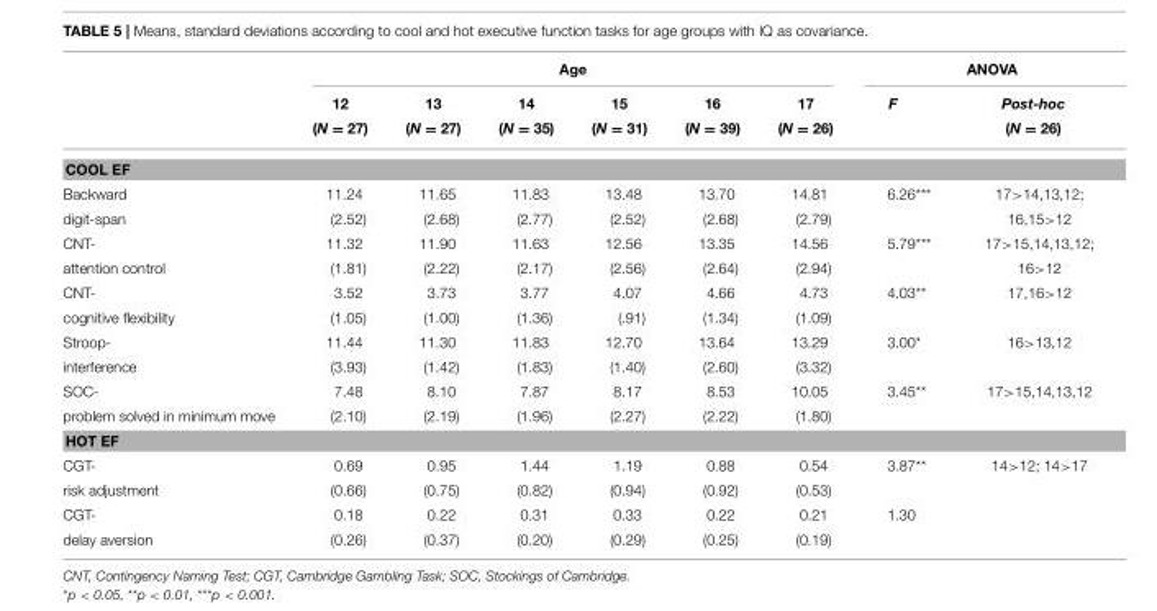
<table><thead><tr><td rowspan="3"></td><td colspan="6">Age</td><td colspan="2">ANOVA</td></tr><tr><td rowspan="2">12 (N = 27)</td><td rowspan="2">13 (N = 27)</td><td rowspan="2">14 (N = 35)</td><td rowspan="2">15 (N = 31)</td><td rowspan="2">16 (N = 39)</td><td rowspan="2">17 (N = 26)</td><td rowspan="2">F</td><td rowspan="2">Post-hoc (N = 26)</td></tr><tr></tr></thead><tbody><tr><td colspan="9">COOL EF</td></tr><tr><td>Backward</td><td>11.24</td><td>11.65</td><td>11.83</td><td>13.48</td><td>13.70</td><td>14.81</td><td>6.26***</td><td>17&gt;14,13,12;</td></tr><tr><td>digit-span</td><td>(2.52)</td><td>(2.68)</td><td>(2.77)</td><td>(2.52)</td><td>(2.68)</td><td>(2.79)</td><td></td><td>16,15&gt;12</td></tr><tr><td>CNT-</td><td>11.32</td><td>11.90</td><td>11.63</td><td>12.56</td><td>13.35</td><td>14.56</td><td>5.79***</td><td>17&gt;15,14,13,12;</td></tr><tr><td>attention control</td><td>(1.81)</td><td>(2.22)</td><td>(2.17)</td><td>(2.56)</td><td>(2.64)</td><td>(2.94)</td><td></td><td>16&gt;12</td></tr><tr><td>CNT-</td><td>3.52</td><td>3.73</td><td>3.77</td><td>4.07</td><td>4.66</td><td>4.73</td><td>4.03**</td><td>17,16&gt;12</td></tr><tr><td>cognitive flexibility</td><td>(1.05)</td><td>(1.00)</td><td>(1.36)</td><td>(.91)</td><td>(1.34)</td><td>(1.09)</td><td></td><td></td></tr><tr><td>Stroop-</td><td>11.44</td><td>11.30</td><td>11.83</td><td>12.70</td><td>13.64</td><td>13.29</td><td>3.00*</td><td>16&gt;13,12</td></tr><tr><td>interference</td><td>(3.93)</td><td>(1.42)</td><td>(1.83)</td><td>(1.40)</td><td>(2.60)</td><td>(3.32)</td><td></td><td></td></tr><tr><td>SOC-</td><td>7.48</td><td>8.10</td><td>7.87</td><td>8.17</td><td>8.53</td><td>10.05</td><td>3.45**</td><td>17&gt;15,14,13,12</td></tr><tr><td>problem solved in minimum move</td><td>(2.10)</td><td>(2.19)</td><td>(1.96)</td><td>(2.27)</td><td>(2.22)</td><td>(1.80)</td><td></td><td></td></tr><tr><td colspan="9">HOT EF</td></tr><tr><td>CGT-</td><td>0.69</td><td>0.95</td><td>1.44</td><td>1.19</td><td>0.88</td><td>0.54</td><td>3.87**</td><td>14&gt;12; 14&gt;17</td></tr><tr><td>risk adjustment</td><td>(0.66)</td><td>(0.75)</td><td>(0.82)</td><td>(0.94)</td><td>(0.92)</td><td>(0.53)</td><td></td><td></td></tr><tr><td>CGT-</td><td>0.18</td><td>0.22</td><td>0.31</td><td>0.33</td><td>0.22</td><td>0.21</td><td>1.30</td><td></td></tr><tr><td>delay aversion</td><td>(0.26)</td><td>(0.37)</td><td>(0.20)</td><td>(0.29)</td><td>(0.25)</td><td>(0.19)</td><td></td><td></td></tr></tbody></table>